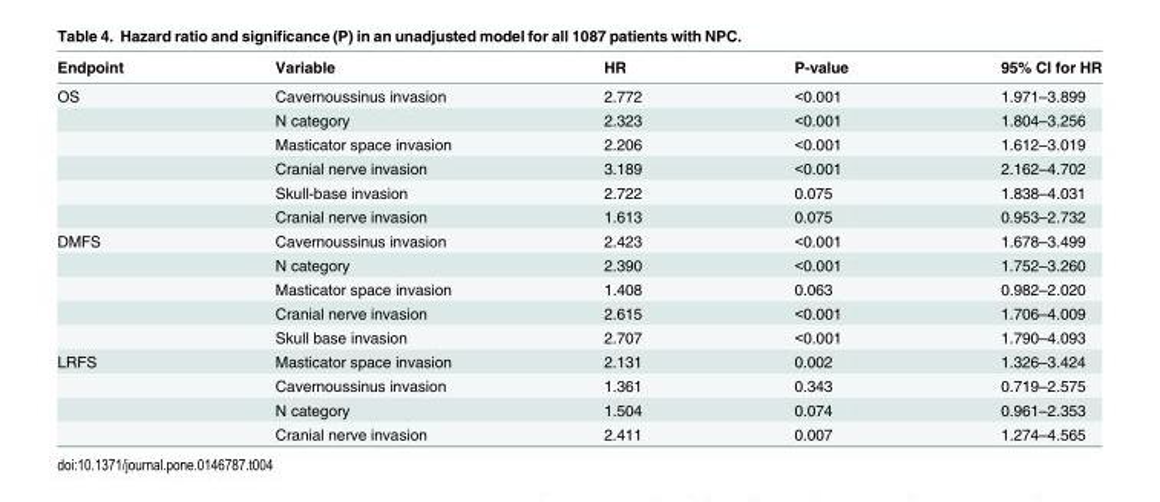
<table><thead><tr><td>Endpoint</td><td>Variable</td><td>HR</td><td>P-value</td><td>95% CI for HR</td></tr></thead><tbody><tr><td rowspan="6">OS</td><td>Cavernoussinus invasion</td><td>2.772</td><td>&lt;0.001</td><td>1.971–3.899</td></tr><tr><td>N category</td><td>2.323</td><td>&lt;0.001</td><td>1.804–3.256</td></tr><tr><td>Masticator space invasion</td><td>2.206</td><td>&lt;0.001</td><td>1.612–3.019</td></tr><tr><td>Cranial nerve invasion</td><td>3.189</td><td>&lt;0.001</td><td>2.162–4.702</td></tr><tr><td>Skull-base invasion</td><td>2.722</td><td>0.075</td><td>1.838–4.031</td></tr><tr><td>Cranial nerve invasion</td><td>1.613</td><td>0.075</td><td>0.953–2.732</td></tr><tr><td rowspan="5">DMFS</td><td>Cavernoussinus invasion</td><td>2.423</td><td>&lt;0.001</td><td>1.678–3.499</td></tr><tr><td>N category</td><td>2.390</td><td>&lt;0.001</td><td>1.752–3.260</td></tr><tr><td>Masticator space invasion</td><td>1.408</td><td>0.063</td><td>0.982–2.020</td></tr><tr><td>Cranial nerve invasion</td><td>2.615</td><td>&lt;0.001</td><td>1.706–4.009</td></tr><tr><td>Skull base invasion</td><td>2.707</td><td>&lt;0.001</td><td>1.790–4.093</td></tr><tr><td rowspan="4">LRFS</td><td>Masticator space invasion</td><td>2.131</td><td>0.002</td><td>1.326–3.424</td></tr><tr><td>Cavernoussinus invasion</td><td>1.361</td><td>0.343</td><td>0.719–2.575</td></tr><tr><td>N category</td><td>1.504</td><td>0.074</td><td>0.961–2.353</td></tr><tr><td>Cranial nerve invasion</td><td>2.411</td><td>0.007</td><td>1.274–4.565</td></tr></tbody></table>